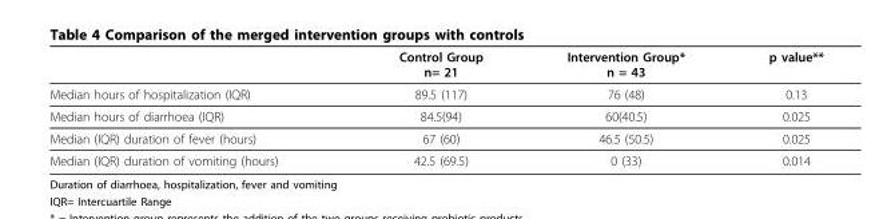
<table><thead><tr><td></td><td>Control Group n= 21</td><td>Intervention Group* n = 43</td><td>p value**</td></tr></thead><tbody><tr><td>Median hours of hospitalization (IQR)</td><td>89.5 (117)</td><td>76 (48)</td><td>0.13</td></tr><tr><td>Median hours of diarrhoea (IQR)</td><td>84.5(94)</td><td>60(40.5)</td><td>0.025</td></tr><tr><td>Median (IQR) duration of fever (hours)</td><td>67 (60)</td><td>46.5 (50.5)</td><td>0.025</td></tr><tr><td>Median (IQR) duration of vomiting (hours)</td><td>42.5 (69.5)</td><td>0 (33)</td><td>0.014</td></tr></tbody></table>